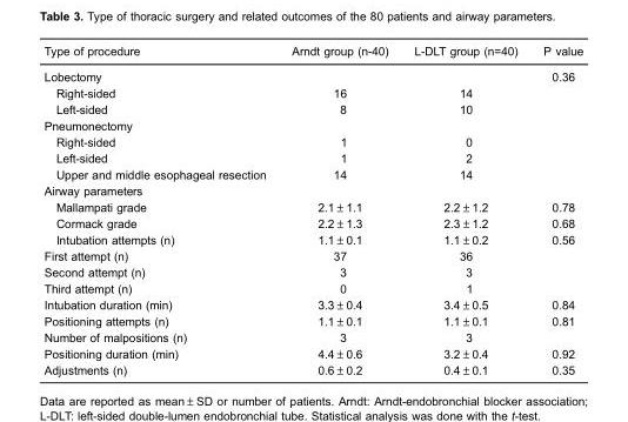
<table><thead><tr><td>Type of procedure</td><td>Arndt group (n-40)</td><td>L-DLT group (n=40)</td><td>P value</td></tr></thead><tbody><tr><td colspan="3">Lobectomy</td><td>0.36</td></tr><tr><td>Right-sided</td><td>16</td><td>14</td><td></td></tr><tr><td>Left-sided</td><td>8</td><td>10</td><td></td></tr><tr><td colspan="4">Pneumonectomy</td></tr><tr><td>Right-sided</td><td>1</td><td>0</td><td></td></tr><tr><td>Left-sided</td><td>1</td><td>2</td><td></td></tr><tr><td>Upper and middle esophageal resection</td><td>14</td><td>14</td><td></td></tr><tr><td colspan="4">Airway parameters</td></tr><tr><td>Mallampati grade</td><td>2.1±1.1</td><td>2.2±1.2</td><td>0.78</td></tr><tr><td>Cormack grade</td><td>2.2±1.3</td><td>2.3±1.2</td><td>0.68</td></tr><tr><td>Intubation attempts (n)</td><td>1.1±0.1</td><td>1.1±0.2</td><td>0.56</td></tr><tr><td>First attempt (n)</td><td>37</td><td>36</td><td></td></tr><tr><td>Second attempt (n)</td><td>3</td><td>3</td><td></td></tr><tr><td>Third attempt (n)</td><td>0</td><td>1</td><td></td></tr><tr><td>Intubation duration (min)</td><td>3.3±0.4</td><td>3.4±0.5</td><td>0.84</td></tr><tr><td>Positioning attempts (n)</td><td>1.1±0.1</td><td>1.1±0.1</td><td>0.81</td></tr><tr><td>Number of malpositions (n)</td><td>3</td><td>3</td><td></td></tr><tr><td>Positioning duration (min)</td><td>4.4±0.6</td><td>3.2±0.4</td><td>0.92</td></tr><tr><td>Adjustments (n)</td><td>0.6±0.2</td><td>0.4±0.1</td><td>0.35</td></tr></tbody></table>